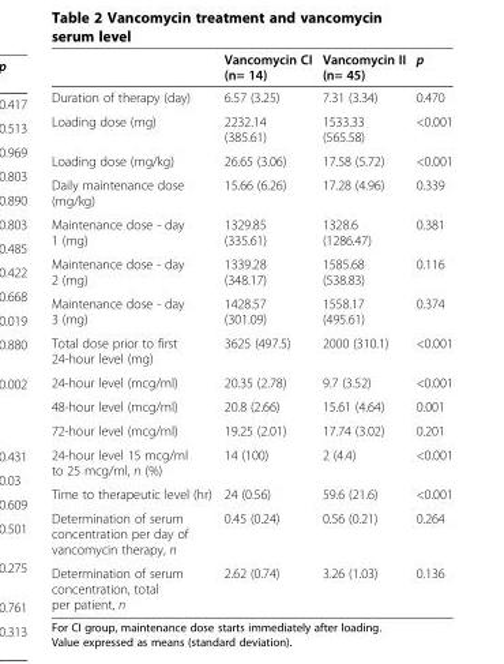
<table><thead><tr><td></td><td>Vancomycin CI (n= 14)</td><td>Vancomycin II (n= 45)</td><td>p</td></tr></thead><tbody><tr><td>Duration of therapy (day)</td><td>6.57 (3.25)</td><td>7.31 (3.34)</td><td>0.470</td></tr><tr><td>Loading dose (mg)</td><td>2232.14 (385.61)</td><td>1533.33 (565.58)</td><td>&lt;0.001</td></tr><tr><td>Loading dose (mg/kg)</td><td>26.65 (3.06)</td><td>17.58 (5.72)</td><td>&lt;0.001</td></tr><tr><td>Daily maintenance dose (mg/kg)</td><td>15.66 (6.26)</td><td>17.28 (4.96)</td><td>0.339</td></tr><tr><td>Maintenance dose - day 1 (mg)</td><td>1329.85 (335.61)</td><td>1328.6 (1286.47)</td><td>0.381</td></tr><tr><td>Maintenance dose - day 2 (mg)</td><td>1339.28 (348.17)</td><td>1585.68 (538.83)</td><td>0.116</td></tr><tr><td>Maintenance dose - day 3 (mg)</td><td>1428.57 (301.09)</td><td>1558.17 (495.61)</td><td>0.374</td></tr><tr><td>Total dose prior to first 24-hour level (mg)</td><td>3625 (497.5)</td><td>2000 (310.1)</td><td>&lt;0.001</td></tr><tr><td>24-hour level (mcg/ml)</td><td>20.35 (2.78)</td><td>9.7 (3.52)</td><td>&lt;0.001</td></tr><tr><td>48-hour level (mcg/ml)</td><td>20.8 (2.66)</td><td>15.61 (4.64)</td><td>0.001</td></tr><tr><td>72-hour level (mcg/ml)</td><td>19.25 (2.01)</td><td>17.74 (3.02)</td><td>0.201</td></tr><tr><td>24-hour level 15 mcg/ml to 25 mcg/ml, n (%)</td><td>14 (100)</td><td>2 (4.4)</td><td>&lt;0.001</td></tr><tr><td>Time to therapeutic level (hr)</td><td>24 (0.56)</td><td>59.6 (21.6)</td><td>&lt;0.001</td></tr><tr><td>Determination of serum concentration per day of vancomycin therapy, n</td><td>0.45 (0.24)</td><td>0.56 (0.21)</td><td>0.264</td></tr><tr><td>Determination of serum concentration, total per patient, n</td><td>2.62 (0.74)</td><td>3.26 (1.03)</td><td>0.136</td></tr></tbody></table>